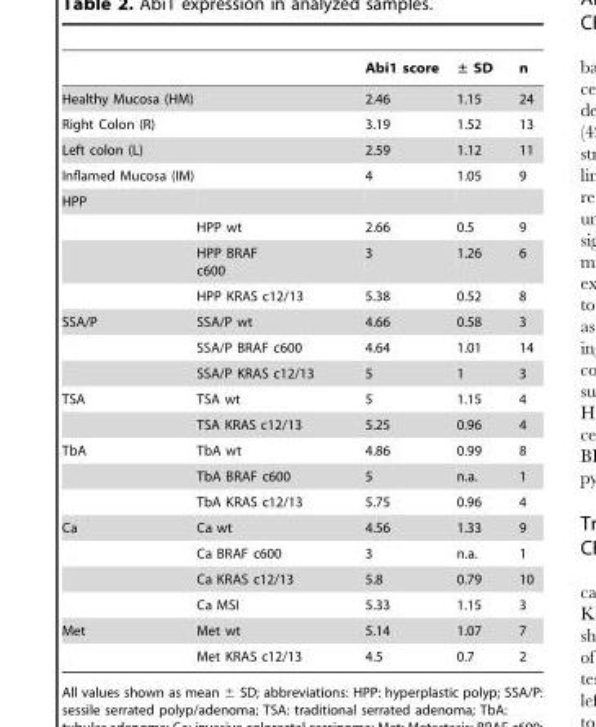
<table><thead><tr><td></td><td></td><td>Abi1 score</td><td>± SD</td><td>n</td></tr></thead><tbody><tr><td colspan="2">Healthy Mucosa (HM)</td><td>2.46</td><td>1.15</td><td>24</td></tr><tr><td colspan="2">Right Colon (R)</td><td>3.19</td><td>1.52</td><td>13</td></tr><tr><td colspan="2">Left colon (L)</td><td>2.59</td><td>1.12</td><td>11</td></tr><tr><td colspan="2">Inflamed Mucosa (IM)</td><td>4</td><td>1.05</td><td>9</td></tr><tr><td colspan="5">HPP</td></tr><tr><td></td><td>HPP wt</td><td>2.66</td><td>0.5</td><td>9</td></tr><tr><td></td><td>HPP BRAF c600</td><td>3</td><td>1.26</td><td>6</td></tr><tr><td></td><td>HPP KRAS c12/13</td><td>5.38</td><td>0.52</td><td>8</td></tr><tr><td rowspan="3">SSA/P</td><td>SSA/P wt</td><td>4.66</td><td>0.58</td><td>3</td></tr><tr><td>SSA/P BRAF c600</td><td>4.64</td><td>1.01</td><td>14</td></tr><tr><td>SSA/P KRAS c12/13</td><td>5</td><td>1</td><td>3</td></tr><tr><td rowspan="2">TSA</td><td>TSA wt</td><td>5</td><td>1.15</td><td>4</td></tr><tr><td>TSA KRAS c12/13</td><td>5.25</td><td>0.96</td><td>4</td></tr><tr><td rowspan="3">TbA</td><td>TbA wt</td><td>4.86</td><td>0.99</td><td>8</td></tr><tr><td>TbA BRAF c600</td><td>5</td><td>n.a.</td><td>1</td></tr><tr><td>TbA KRAS c12/13</td><td>5.75</td><td>0.96</td><td>4</td></tr><tr><td rowspan="4">Ca</td><td>Ca wt</td><td>4.56</td><td>1.33</td><td>9</td></tr><tr><td>Ca BRAF c600</td><td>3</td><td>n.a.</td><td>1</td></tr><tr><td>Ca KRAS c12/13</td><td>5.8</td><td>0.79</td><td>10</td></tr><tr><td>Ca MSI</td><td>5.33</td><td>1.15</td><td>3</td></tr><tr><td rowspan="2">Met</td><td>Met wt</td><td>5.14</td><td>1.07</td><td>7</td></tr><tr><td>Met KRAS c12/13</td><td>4.5</td><td>0.7</td><td>2</td></tr></tbody></table>